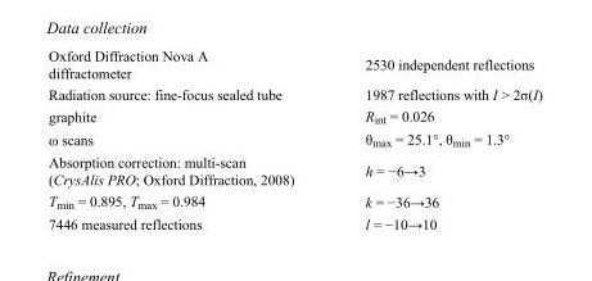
<table><tbody><tr><td>Oxford Diffraction Nova A diffractometer</td><td>2530 independent reflections</td></tr><tr><td>Radiation source: fine-focus sealed tube</td><td>1987 reflections with I &gt; 2σ(I)</td></tr><tr><td>graphite</td><td>R<sub>int</sub> = 0.026</td></tr><tr><td>ω scans</td><td>θ<sub>max</sub> = 25.1°, θ<sub>min</sub> = 1.3°</td></tr><tr><td>Absorption correction: multi-scan (CrysAlis PRO; Oxford Diffraction, 2008)</td><td>h = −6→3</td></tr><tr><td>T<sub>min</sub> = 0.895, T<sub>max</sub> = 0.984</td><td>k = −36→36</td></tr><tr><td>7446 measured reflections</td><td>l = −10→10</td></tr></tbody></table>